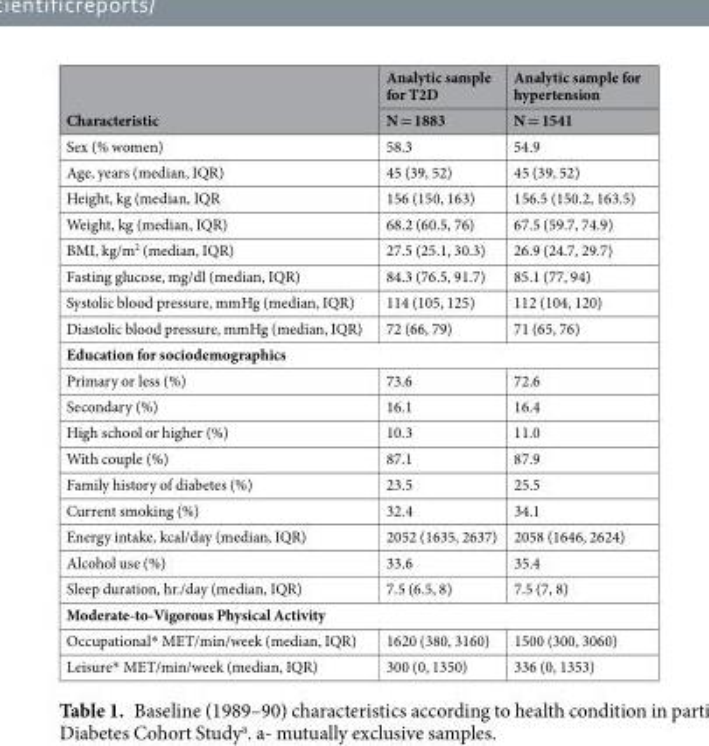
<table><thead><tr><td rowspan="2">Characteristic</td><td rowspan="2">Analytic sample for T2D N = 1883</td><td rowspan="2">Analytic sample for hypertension N = 1541</td></tr><tr></tr></thead><tbody><tr><td>Sex (% women)</td><td>58.3</td><td>54.9</td></tr><tr><td>Age, years (median, IQR)</td><td>45 (39, 52)</td><td>45 (39, 52)</td></tr><tr><td>Height, kg (median, IQR</td><td>156 (150, 163)</td><td>156.5 (150.2, 163.5)</td></tr><tr><td>Weight, kg (median, IQR)</td><td>68.2 (60.5, 76)</td><td>67.5 (59.7, 74.9)</td></tr><tr><td>BMI, kg/m<sup>2</sup> (median, IQR)</td><td>27.5 (25.1, 30.3)</td><td>26.9 (24.7, 29.7)</td></tr><tr><td>Fasting glucose, mg/dl (median, IQR)</td><td>84.3 (76.5, 91.7)</td><td>85.1 (77, 94)</td></tr><tr><td>Systolic blood pressure, mmHg (median, IQR)</td><td>114 (105, 125)</td><td>112 (104, 120)</td></tr><tr><td>Diastolic blood pressure, mmHg (median, IQR)</td><td>72 (66, 79)</td><td>71 (65, 76)</td></tr><tr><td colspan="3">Education for sociodemographics</td></tr><tr><td>Primary or less (%)</td><td>73.6</td><td>72.6</td></tr><tr><td>Secondary (%)</td><td>16.1</td><td>16.4</td></tr><tr><td>High school or higher (%)</td><td>10.3</td><td>11.0</td></tr><tr><td>With couple (%)</td><td>87.1</td><td>87.9</td></tr><tr><td>Family history of diabetes (%)</td><td>23.5</td><td>25.5</td></tr><tr><td>Current smoking (%)</td><td>32.4</td><td>34.1</td></tr><tr><td>Energy intake, kcal/day (median, IQR)</td><td>2052 (1635, 2637)</td><td>2058 (1646, 2624)</td></tr><tr><td>Alcohol use (%)</td><td>33.6</td><td>35.4</td></tr><tr><td>Sleep duration, hr./day (median, IQR)</td><td>7.5 (6.5, 8)</td><td>7.5 (7, 8)</td></tr><tr><td colspan="3">Moderate-to-Vigorous Physical Activity</td></tr><tr><td>Occupational* MET/min/week (median, IQR)</td><td>1620 (380, 3160)</td><td>1500 (300, 3060)</td></tr><tr><td>Leisure* MET/min/week (median, IQR)</td><td>300 (0, 1350)</td><td>336 (0, 1353)</td></tr></tbody></table>